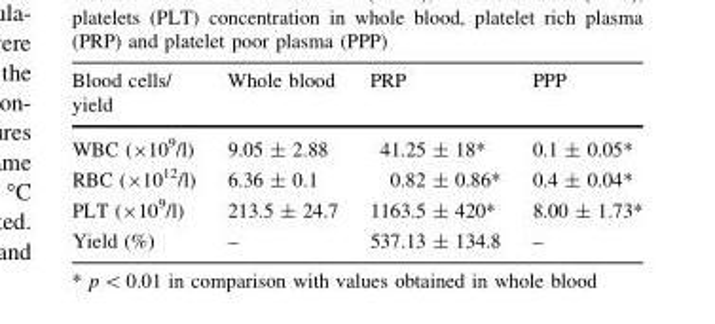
<table><thead><tr><td>Blood cells/ yield</td><td>Whole blood</td><td>PRP</td><td>PPP</td></tr></thead><tbody><tr><td>WBC (×10<sup>9</sup>/l)</td><td>9.05 ± 2.88</td><td>41.25 ± 18*</td><td>0.1 ± 0.05*</td></tr><tr><td>RBC (×10<sup>12</sup>/l)</td><td>6.36 ± 0.1</td><td>0.82 ± 0.86*</td><td>0.4 ± 0.04*</td></tr><tr><td>PLT (×10<sup>9</sup>/l)</td><td>213.5 ± 24.7</td><td>1163.5 ± 420*</td><td>8.00 ± 1.73*</td></tr><tr><td>Yield (%)</td><td>–</td><td>537.13 ± 134.8</td><td>–</td></tr></tbody></table>